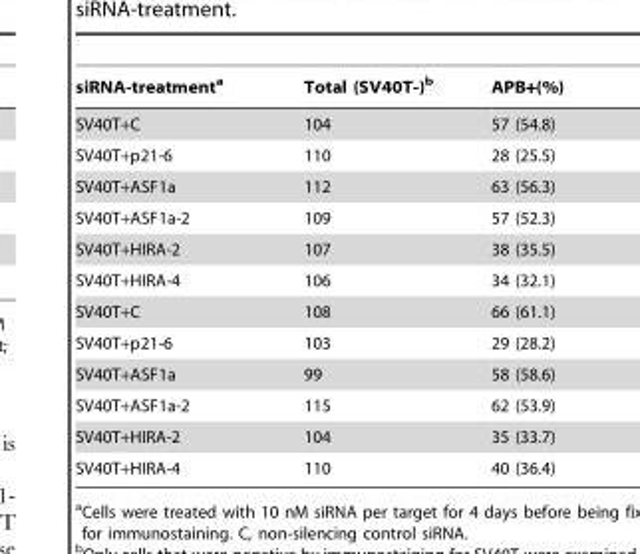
<table><thead><tr><td>siRNA-treatment<sup>a</sup></td><td>Total (SV40T-)<sup>b</sup></td><td>APB+(%)</td></tr></thead><tbody><tr><td>SV40T+C</td><td>104</td><td>57 (54.8)</td></tr><tr><td>SV40T+p21-6</td><td>110</td><td>28 (25.5)</td></tr><tr><td>SV40T+ASF1a</td><td>112</td><td>63 (56.3)</td></tr><tr><td>SV40T+ASF1a-2</td><td>109</td><td>57 (52.3)</td></tr><tr><td>SV40T+HIRA-2</td><td>107</td><td>38 (35.5)</td></tr><tr><td>SV40T+HIRA-4</td><td>106</td><td>34 (32.1)</td></tr><tr><td>SV40T+C</td><td>108</td><td>66 (61.1)</td></tr><tr><td>SV40T+p21-6</td><td>103</td><td>29 (28.2)</td></tr><tr><td>SV40T+ASF1a</td><td>99</td><td>58 (58.6)</td></tr><tr><td>SV40T+ASF1a-2</td><td>115</td><td>62 (53.9)</td></tr><tr><td>SV40T+HIRA-2</td><td>104</td><td>35 (33.7)</td></tr><tr><td>SV40T+HIRA-4</td><td>110</td><td>40 (36.4)</td></tr></tbody></table>